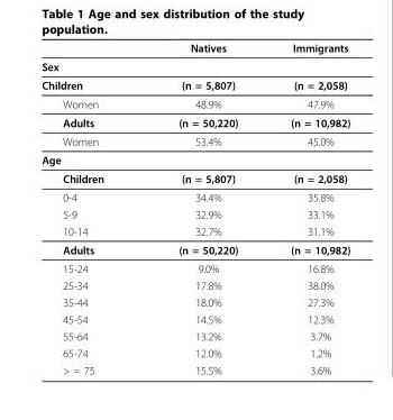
<table><thead><tr><td></td><td>Natives</td><td>Immigrants</td></tr></thead><tbody><tr><td colspan="3">Sex</td></tr><tr><td>Children</td><td>(n = 5,807)</td><td>(n = 2,058)</td></tr><tr><td>Women</td><td>48.9%</td><td>47.9%</td></tr><tr><td>Adults</td><td>(n = 50,220)</td><td>(n = 10,982)</td></tr><tr><td>Women</td><td>53.4%</td><td>45.0%</td></tr><tr><td colspan="3">Age</td></tr><tr><td>Children</td><td>(n = 5,807)</td><td>(n = 2,058)</td></tr><tr><td>0-4</td><td>34.4%</td><td>35.8%</td></tr><tr><td>5-9</td><td>32.9%</td><td>33.1%</td></tr><tr><td>10-14</td><td>32.7%</td><td>31.1%</td></tr><tr><td>Adults</td><td>(n = 50,220)</td><td>(n = 10,982)</td></tr><tr><td>15-24</td><td>9.0%</td><td>16.8%</td></tr><tr><td>25-34</td><td>17.8%</td><td>38.0%</td></tr><tr><td>35-44</td><td>18.0%</td><td>27.3%</td></tr><tr><td>45-54</td><td>14.5%</td><td>12.3%</td></tr><tr><td>55-64</td><td>13.2%</td><td>3.7%</td></tr><tr><td>65-74</td><td>12.0%</td><td>1.2%</td></tr><tr><td>&gt; = 75</td><td>15.5%</td><td>3.6%</td></tr></tbody></table>